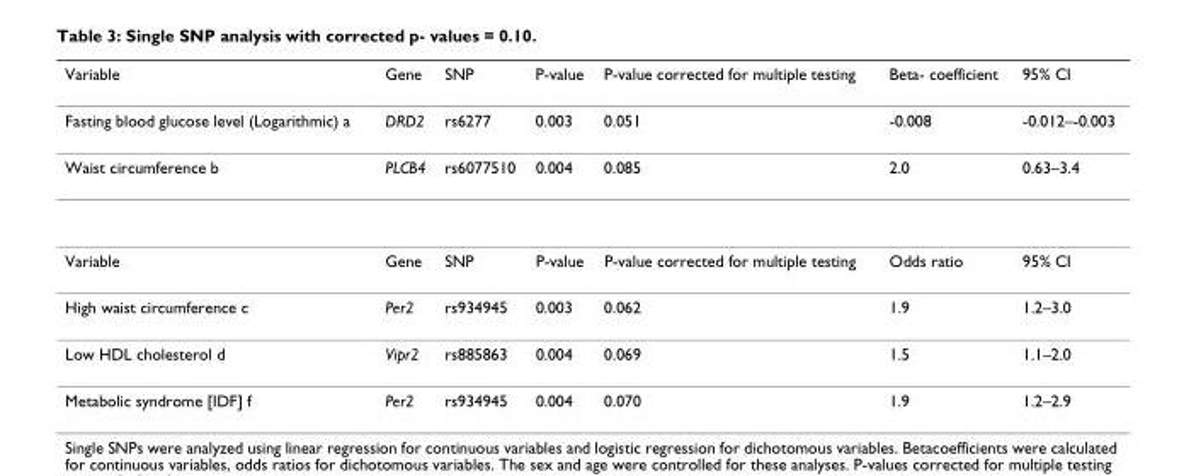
<table><thead><tr><td>Variable</td><td>Gene</td><td>SNP</td><td>P-value</td><td>P-value corrected for multiple testing</td><td>Beta- coefficient</td><td>95% CI</td></tr></thead><tbody><tr><td>Fasting blood glucose level (Logarithmic) a</td><td>DRD2</td><td>rs6277</td><td>0.003</td><td>0.051</td><td>-0.008</td><td>-0.012–-0.003</td></tr><tr><td>Waist circumference b</td><td>PLCB4</td><td>rs6077510</td><td>0.004</td><td>0.085</td><td>2.0</td><td>0.63–3.4</td></tr><tr><td>Variable</td><td>Gene</td><td>SNP</td><td>P-value</td><td>P-value corrected for multiple testing</td><td>Odds ratio</td><td>95% CI</td></tr><tr><td>High waist circumference c</td><td>Per2</td><td>rs934945</td><td>0.003</td><td>0.062</td><td>1.9</td><td>1.2–3.0</td></tr><tr><td>Low HDL cholesterol d</td><td>Vipr2</td><td>rs885863</td><td>0.004</td><td>0.069</td><td>1.5</td><td>1.1–2.0</td></tr><tr><td>Metabolic syndrome [IDF] f</td><td>Per2</td><td>rs934945</td><td>0.004</td><td>0.070</td><td>1.9</td><td>1.2–2.9</td></tr></tbody></table>